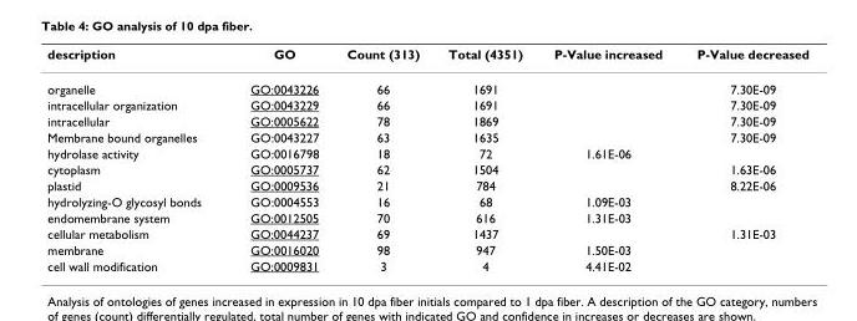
<table><thead><tr><td>description</td><td>GO</td><td>Count (313)</td><td>Total (4351)</td><td>P-Value increased</td><td>P-Value decreased</td></tr></thead><tbody><tr><td>organelle</td><td>GO:0043226</td><td>66</td><td>1691</td><td></td><td>7.30E-09</td></tr><tr><td>intracellular organization</td><td>GO:0043229</td><td>66</td><td>1691</td><td></td><td>7.30E-09</td></tr><tr><td>intracellular</td><td>GO:0005622</td><td>78</td><td>1869</td><td></td><td>7.30E-09</td></tr><tr><td>Membrane bound organelles</td><td>GO:0043227</td><td>63</td><td>1635</td><td></td><td>7.30E-09</td></tr><tr><td>hydrolase activity</td><td>GO:0016798</td><td>18</td><td>72</td><td>1.61E-06</td><td></td></tr><tr><td>cytoplasm</td><td>GO:0005737</td><td>62</td><td>1504</td><td></td><td>1.63E-06</td></tr><tr><td>plastid</td><td>GO:0009536</td><td>21</td><td>784</td><td></td><td>8.22E-06</td></tr><tr><td>hydrolyzing-O glycosyl bonds</td><td>GO:0004553</td><td>16</td><td>68</td><td>1.09E-03</td><td></td></tr><tr><td>endomembrane system</td><td>GO:0012505</td><td>70</td><td>616</td><td>1.31E-03</td><td></td></tr><tr><td>cellular metabolism</td><td>GO:0044237</td><td>69</td><td>1437</td><td></td><td>1.31E-03</td></tr><tr><td>membrane</td><td>GO:0016020</td><td>98</td><td>947</td><td>1.50E-03</td><td></td></tr><tr><td>cell wall modification</td><td>GO:0009831</td><td>3</td><td>4</td><td>4.41E-02</td><td></td></tr></tbody></table>